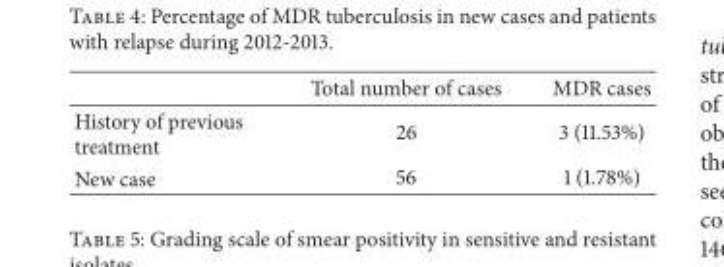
<table><thead><tr><td></td><td>Total number of cases</td><td>MDR cases</td></tr></thead><tbody><tr><td>History of previous treatment</td><td>26</td><td>3 (11.53%)</td></tr><tr><td>New case</td><td>56</td><td>1 (1.78%)</td></tr></tbody></table>